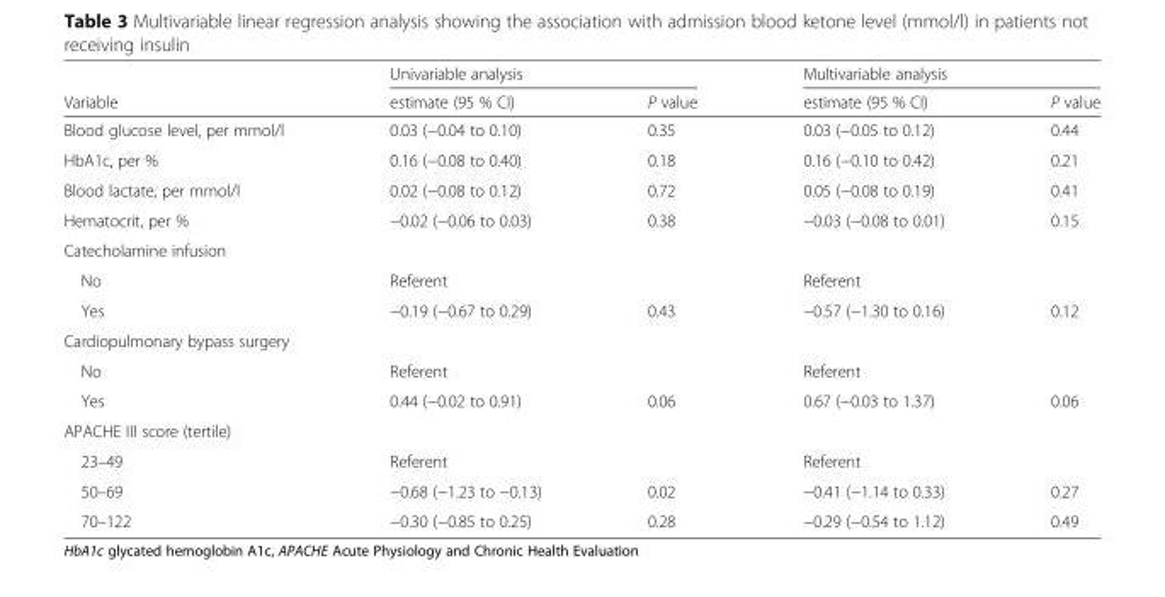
<table><thead><tr><td rowspan="2">Variable</td><td colspan="2">Univariable analysis</td><td colspan="2">Multivariable analysis</td></tr><tr><td>estimate (95 % CI)</td><td>P value</td><td>estimate (95 % CI)</td><td>P value</td></tr></thead><tbody><tr><td>Blood glucose level, per mmol/l</td><td>0.03 (−0.04 to 0.10)</td><td>0.35</td><td>0.03 (−0.05 to 0.12)</td><td>0.44</td></tr><tr><td>HbA1c, per %</td><td>0.16 (−0.08 to 0.40)</td><td>0.18</td><td>0.16 (−0.10 to 0.42)</td><td>0.21</td></tr><tr><td>Blood lactate, per mmol/l</td><td>0.02 (−0.08 to 0.12)</td><td>0.72</td><td>0.05 (−0.08 to 0.19)</td><td>0.41</td></tr><tr><td>Hematocrit, per %</td><td>−0.02 (−0.06 to 0.03)</td><td>0.38</td><td>−0.03 (−0.08 to 0.01)</td><td>0.15</td></tr><tr><td colspan="5">Catecholamine infusion</td></tr><tr><td>No</td><td>Referent</td><td></td><td>Referent</td><td></td></tr><tr><td>Yes</td><td>−0.19 (−0.67 to 0.29)</td><td>0.43</td><td>−0.57 (−1.30 to 0.16)</td><td>0.12</td></tr><tr><td colspan="5">Cardiopulmonary bypass surgery</td></tr><tr><td>No</td><td>Referent</td><td></td><td>Referent</td><td></td></tr><tr><td>Yes</td><td>0.44 (−0.02 to 0.91)</td><td>0.06</td><td>0.67 (−0.03 to 1.37)</td><td>0.06</td></tr><tr><td colspan="5">APACHE III score (tertile)</td></tr><tr><td>23–49</td><td>Referent</td><td></td><td>Referent</td><td></td></tr><tr><td>50–69</td><td>−0.68 (−1.23 to −0.13)</td><td>0.02</td><td>−0.41 (−1.14 to 0.33)</td><td>0.27</td></tr><tr><td>70–122</td><td>−0.30 (−0.85 to 0.25)</td><td>0.28</td><td>−0.29 (−0.54 to 1.12)</td><td>0.49</td></tr></tbody></table>